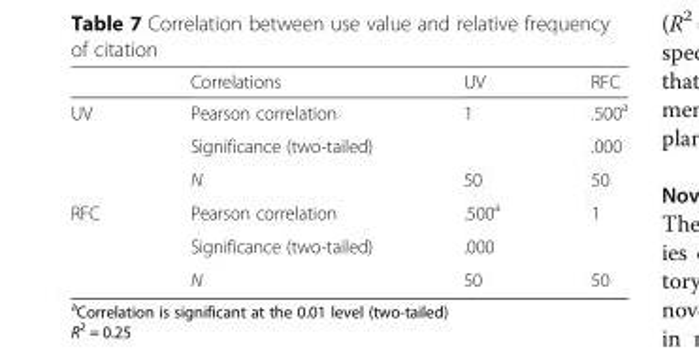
<table><thead><tr><td></td><td>Correlations</td><td>UV</td><td>RFC</td></tr></thead><tbody><tr><td rowspan="3">UV</td><td>Pearson correlation</td><td>1</td><td>.500<sup>a</sup></td></tr><tr><td>Significance (two-tailed)</td><td></td><td>.000</td></tr><tr><td>N</td><td>50</td><td>50</td></tr><tr><td rowspan="3">RFC</td><td>Pearson correlation</td><td>.500<sup>a</sup></td><td>1</td></tr><tr><td>Significance (two-tailed)</td><td>.000</td><td></td></tr><tr><td>N</td><td>50</td><td>50</td></tr></tbody></table>